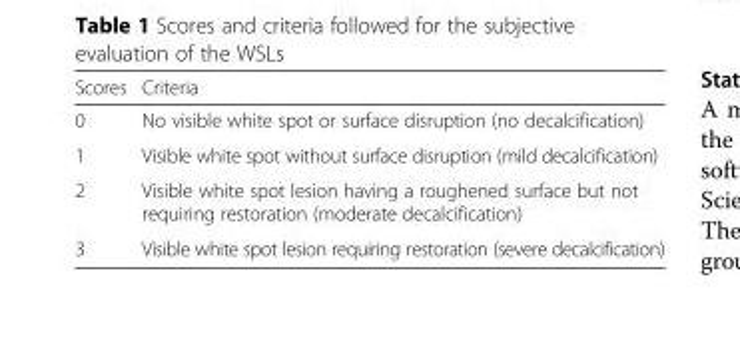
<table><thead><tr><td>Scores</td><td>Criteria</td></tr></thead><tbody><tr><td>0</td><td>No visible white spot or surface disruption (no decalcification)</td></tr><tr><td>1</td><td>Visible white spot without surface disruption (mild decalcification)</td></tr><tr><td>2</td><td>Visible white spot lesion having a roughened surface but not requiring restoration (moderate decalcification)</td></tr><tr><td>3</td><td>Visible white spot lesion requiring restoration (severe decalcification)</td></tr></tbody></table>